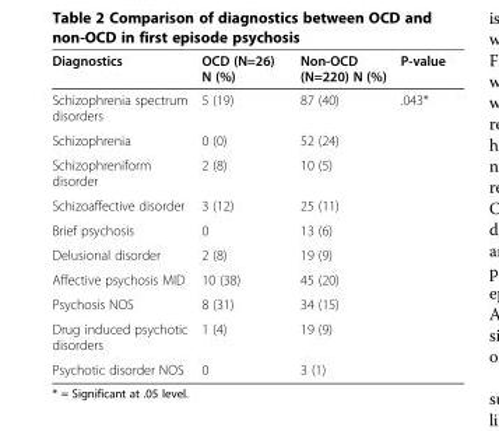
<table><thead><tr><td>Diagnostics</td><td>OCD (N=26) N (%)</td><td>Non-OCD (N=220) N (%)</td><td>P-value</td></tr></thead><tbody><tr><td>Schizophrenia spectrum disorders</td><td>5 (19)</td><td>87 (40)</td><td>.043*</td></tr><tr><td>Schizophrenia</td><td>0 (0)</td><td>52 (24)</td><td></td></tr><tr><td>Schizophreniform disorder</td><td>2 (8)</td><td>10 (5)</td><td></td></tr><tr><td>Schizoaffective disorder</td><td>3 (12)</td><td>25 (11)</td><td></td></tr><tr><td>Brief psychosis</td><td>0</td><td>13 (6)</td><td></td></tr><tr><td>Delusional disorder</td><td>2 (8)</td><td>19 (9)</td><td></td></tr><tr><td>Affective psychosis MID</td><td>10 (38)</td><td>45 (20)</td><td></td></tr><tr><td>Psychosis NOS</td><td>8 (31)</td><td>34 (15)</td><td></td></tr><tr><td>Drug induced psychotic disorders</td><td>1 (4)</td><td>19 (9)</td><td></td></tr><tr><td>Psychotic disorder NOS</td><td>0</td><td>3 (1)</td><td></td></tr></tbody></table>